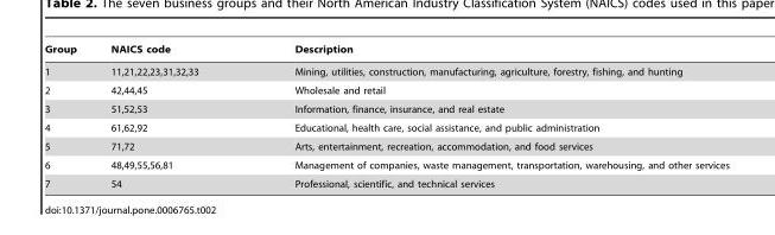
<table><thead><tr><td>Group</td><td>NAICS code</td><td>Description</td></tr></thead><tbody><tr><td>1</td><td>11,21,22,23,31,32,33</td><td>Mining, utilities, construction, manufacturing, agriculture, forestry, fishing, and hunting</td></tr><tr><td>2</td><td>42,44,45</td><td>Wholesale and retail</td></tr><tr><td>3</td><td>51,52,53</td><td>Information, finance, insurance, and real estate</td></tr><tr><td>4</td><td>61,62,92</td><td>Educational, health care, social assistance, and public administration</td></tr><tr><td>5</td><td>71,72</td><td>Arts, entertainment, recreation, accommodation, and food services</td></tr><tr><td>6</td><td>48,49,55,56,81</td><td>Management of companies, waste management, transportation, warehousing, and other services</td></tr><tr><td>7</td><td>54</td><td>Professional, scientific, and technical services</td></tr></tbody></table>